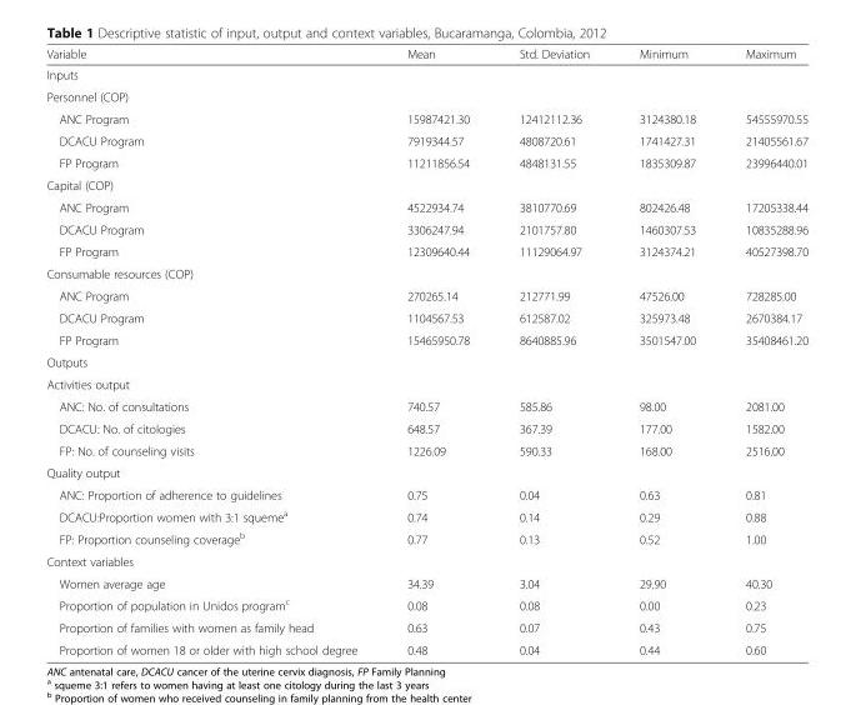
<table><thead><tr><td>Variable</td><td>Mean</td><td>Std. Deviation</td><td>Minimum</td><td>Maximum</td></tr></thead><tbody><tr><td colspan="5">Inputs</td></tr><tr><td colspan="5">Personnel (COP)</td></tr><tr><td>ANC Program</td><td>15987421.30</td><td>12412112.36</td><td>3124380.18</td><td>54555970.55</td></tr><tr><td>DCACU Program</td><td>7919344.57</td><td>4808720.61</td><td>1741427.31</td><td>21405561.67</td></tr><tr><td>FP Program</td><td>11211856.54</td><td>4848131.55</td><td>1835309.87</td><td>23996440.01</td></tr><tr><td colspan="5">Capital (COP)</td></tr><tr><td>ANC Program</td><td>4522934.74</td><td>3810770.69</td><td>802426.48</td><td>17205338.44</td></tr><tr><td>DCACU Program</td><td>3306247.94</td><td>2101757.80</td><td>1460307.53</td><td>10835288.96</td></tr><tr><td>FP Program</td><td>12309640.44</td><td>11129064.97</td><td>3124374.21</td><td>40527398.70</td></tr><tr><td colspan="5">Consumable resources (COP)</td></tr><tr><td>ANC Program</td><td>270265.14</td><td>212771.99</td><td>47526.00</td><td>728285.00</td></tr><tr><td>DCACU Program</td><td>1104567.53</td><td>612587.02</td><td>325973.48</td><td>2670384.17</td></tr><tr><td>FP Program</td><td>15465950.78</td><td>8640885.96</td><td>3501547.00</td><td>35408461.20</td></tr><tr><td colspan="5">Outputs</td></tr><tr><td colspan="5">Activities output</td></tr><tr><td>ANC: No. of consultations</td><td>740.57</td><td>585.86</td><td>98.00</td><td>2081.00</td></tr><tr><td>DCACU: No. of citologies</td><td>648.57</td><td>367.39</td><td>177.00</td><td>1582.00</td></tr><tr><td>FP: No. of counseling visits</td><td>1226.09</td><td>590.33</td><td>168.00</td><td>2516.00</td></tr><tr><td colspan="5">Quality output</td></tr><tr><td>ANC: Proportion of adherence to guidelines</td><td>0.75</td><td>0.04</td><td>0.63</td><td>0.81</td></tr><tr><td>DCACU:Proportion women with 3:1 squeme<sup>a</sup></td><td>0.74</td><td>0.14</td><td>0.29</td><td>0.88</td></tr><tr><td>FP: Proportion counseling coverage<sup>b</sup></td><td>0.77</td><td>0.13</td><td>0.52</td><td>1.00</td></tr><tr><td colspan="5">Context variables</td></tr><tr><td>Women average age</td><td>34.39</td><td>3.04</td><td>29.90</td><td>40.30</td></tr><tr><td>Proportion of population in Unidos program<sup>c</sup></td><td>0.08</td><td>0.08</td><td>0.00</td><td>0.23</td></tr><tr><td>Proportion of families with women as family head</td><td>0.63</td><td>0.07</td><td>0.43</td><td>0.75</td></tr><tr><td>Proportion of women 18 or older with high school degree</td><td>0.48</td><td>0.04</td><td>0.44</td><td>0.60</td></tr></tbody></table>